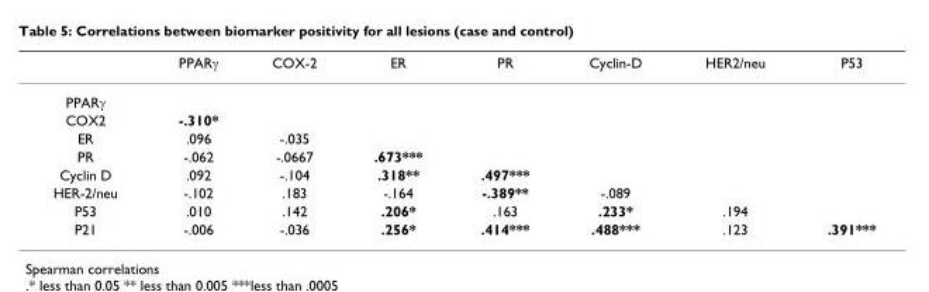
<table><thead><tr><td></td><td>PPARγ</td><td>COX-2</td><td>ER</td><td>PR</td><td>Cyclin-D</td><td>HER2/neu</td><td>P53</td></tr></thead><tbody><tr><td colspan="8">PPARγ</td></tr><tr><td>COX2</td><td>-.310*</td><td></td><td></td><td></td><td></td><td></td><td></td></tr><tr><td>ER</td><td>.096</td><td>-.035</td><td></td><td></td><td></td><td></td><td></td></tr><tr><td>PR</td><td>-.062</td><td>-.0667</td><td>.673***</td><td></td><td></td><td></td><td></td></tr><tr><td>Cyclin D</td><td>.092</td><td>-.104</td><td>.318**</td><td>.497***</td><td></td><td></td><td></td></tr><tr><td>HER-2/neu</td><td>-.102</td><td>.183</td><td>-.164</td><td>-.389**</td><td>-.089</td><td></td><td></td></tr><tr><td>P53</td><td>.010</td><td>.142</td><td>.206*</td><td>.163</td><td>.233*</td><td>.194</td><td></td></tr><tr><td>P21</td><td>-.006</td><td>-.036</td><td>.256*</td><td>.414***</td><td>.488***</td><td>.123</td><td>.391***</td></tr></tbody></table>